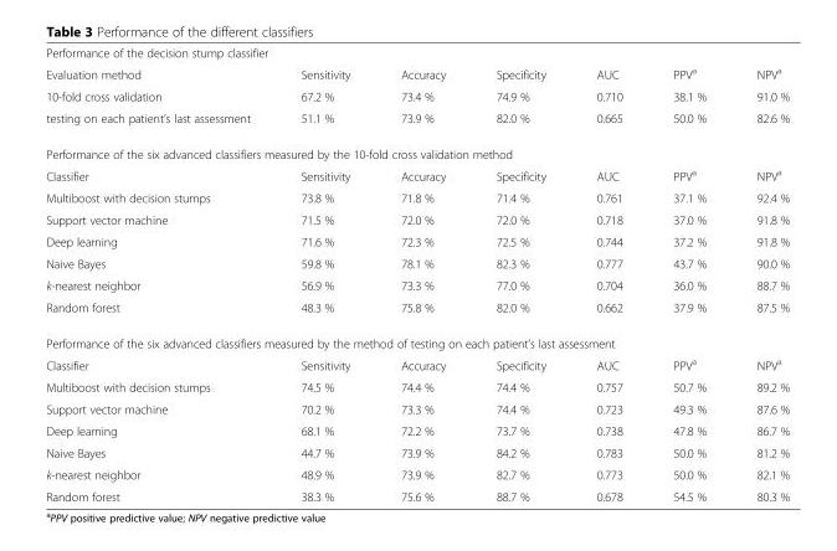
<table><tbody><tr><td colspan="7">Performance of the decision stump classifier</td></tr><tr><td>Evaluation method</td><td>Sensitivity</td><td>Accuracy</td><td>Specificity</td><td>AUC</td><td>PPV<sup>a</sup></td><td>NPV<sup>a</sup></td></tr><tr><td>10-fold cross validation</td><td>67.2 %</td><td>73.4 %</td><td>74.9 %</td><td>0.710</td><td>38.1 %</td><td>91.0 %</td></tr><tr><td>testing on each patient’s last assessment</td><td>51.1 %</td><td>73.9 %</td><td>82.0 %</td><td>0.665</td><td>50.0 %</td><td>82.6 %</td></tr><tr><td colspan="7">Performance of the six advanced classifiers measured by the 10-fold cross validation method</td></tr><tr><td>Classifier</td><td>Sensitivity</td><td>Accuracy</td><td>Specificity</td><td>AUC</td><td>PPV<sup>a</sup></td><td>NPV<sup>a</sup></td></tr><tr><td>Multiboost with decision stumps</td><td>73.8 %</td><td>71.8 %</td><td>71.4 %</td><td>0.761</td><td>37.1 %</td><td>92.4 %</td></tr><tr><td>Support vector machine</td><td>71.5 %</td><td>72.0 %</td><td>72.0 %</td><td>0.718</td><td>37.0 %</td><td>91.8 %</td></tr><tr><td>Deep learning</td><td>71.6 %</td><td>72.3 %</td><td>72.5 %</td><td>0.744</td><td>37.2 %</td><td>91.8 %</td></tr><tr><td>Naive Bayes</td><td>59.8 %</td><td>78.1 %</td><td>82.3 %</td><td>0.777</td><td>43.7 %</td><td>90.0 %</td></tr><tr><td>k-nearest neighbor</td><td>56.9 %</td><td>73.3 %</td><td>77.0 %</td><td>0.704</td><td>36.0 %</td><td>88.7 %</td></tr><tr><td>Random forest</td><td>48.3 %</td><td>75.8 %</td><td>82.0 %</td><td>0.662</td><td>37.9 %</td><td>87.5 %</td></tr><tr><td colspan="7">Performance of the six advanced classifiers measured by the method of testing on each patient’s last assessment</td></tr><tr><td>Classifier</td><td>Sensitivity</td><td>Accuracy</td><td>Specificity</td><td>AUC</td><td>PPV<sup>a</sup></td><td>NPV<sup>a</sup></td></tr><tr><td>Multiboost with decision stumps</td><td>74.5 %</td><td>74.4 %</td><td>74.4 %</td><td>0.757</td><td>50.7 %</td><td>89.2 %</td></tr><tr><td>Support vector machine</td><td>70.2 %</td><td>73.3 %</td><td>74.4 %</td><td>0.723</td><td>49.3 %</td><td>87.6 %</td></tr><tr><td>Deep learning</td><td>68.1 %</td><td>72.2 %</td><td>73.7 %</td><td>0.738</td><td>47.8 %</td><td>86.7 %</td></tr><tr><td>Naive Bayes</td><td>44.7 %</td><td>73.9 %</td><td>84.2 %</td><td>0.783</td><td>50.0 %</td><td>81.2 %</td></tr><tr><td>k-nearest neighbor</td><td>48.9 %</td><td>73.9 %</td><td>82.7 %</td><td>0.773</td><td>50.0 %</td><td>82.1 %</td></tr><tr><td>Random forest</td><td>38.3 %</td><td>75.6 %</td><td>88.7 %</td><td>0.678</td><td>54.5 %</td><td>80.3 %</td></tr></tbody></table>